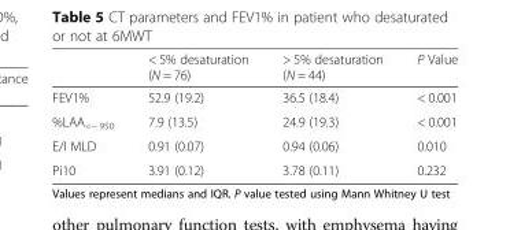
<table><thead><tr><td></td><td>&lt; 5% desaturation (N = 76)</td><td>&gt; 5% desaturation (N = 44)</td><td>P Value</td></tr></thead><tbody><tr><td>FEV1%</td><td>52.9 (19.2)</td><td>36.5 (18.4)</td><td>&lt; 0.001</td></tr><tr><td>%LAA<sub>&lt;− 950</sub></td><td>7.9 (13.5)</td><td>24.9 (19.3)</td><td>&lt; 0.001</td></tr><tr><td>E/I MLD</td><td>0.91 (0.07)</td><td>0.94 (0.06)</td><td>0.010</td></tr><tr><td>Pi10</td><td>3.91 (0.12)</td><td>3.78 (0.11)</td><td>0.232</td></tr></tbody></table>